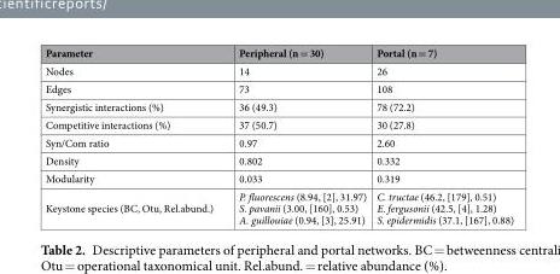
<table><thead><tr><td>Parameter</td><td>Peripheral (n = 30)</td><td>Portal (n = 7)</td></tr></thead><tbody><tr><td>Nodes</td><td>14</td><td>26</td></tr><tr><td>Edges</td><td>73</td><td>108</td></tr><tr><td>Synergistic interactions (%)</td><td>36 (49.3)</td><td>78 (72.2)</td></tr><tr><td>Competitive interactions (%)</td><td>37 (50.7)</td><td>30 (27.8)</td></tr><tr><td>Syn/Com ratio</td><td>0.97</td><td>2.60</td></tr><tr><td>Density</td><td>0.802</td><td>0.332</td></tr><tr><td>Modularity</td><td>0.033</td><td>0.319</td></tr><tr><td>Keystone species (BC, Otu, Rel.abund.)</td><td>P. fluorescens (8.94, [2], 31.97) S. pavanii (3.00, [160], 0.53) A. guillouiae (0.94, [3], 25.91)</td><td>C. tructae (46.2, [179], 0.51) E. fergusonii (42.5, [4], 1.28) S. epidermidis (37.1, [167], 0.88)</td></tr></tbody></table>